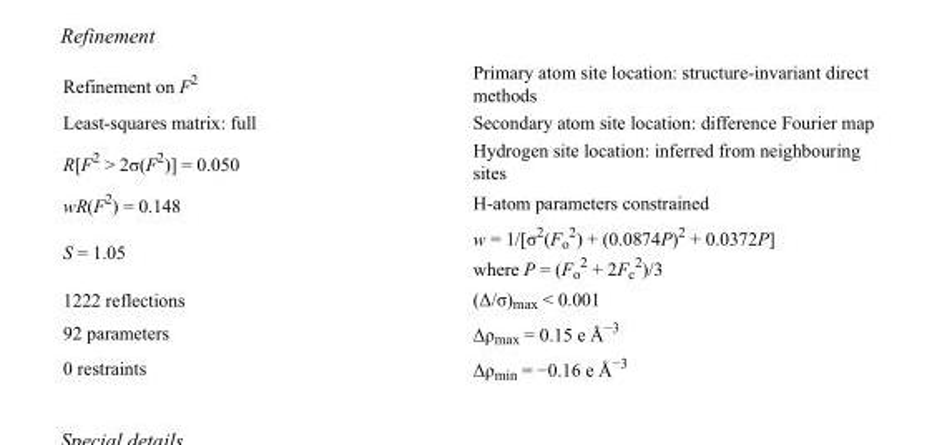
<table><tbody><tr><td>Refinement on F<sup>2</sup></td><td>Primary atom site location: structure-invariant direct methods</td></tr><tr><td>Least-squares matrix: full</td><td>Secondary atom site location: difference Fourier map</td></tr><tr><td>R[F<sup>2</sup> &gt; 2σ(F<sup>2</sup>)] = 0.050</td><td>Hydrogen site location: inferred from neighbouring sites</td></tr><tr><td>wR(F<sup>2</sup>) = 0.148</td><td>H-atom parameters constrained</td></tr><tr><td>S = 1.05</td><td>w = 1/[σ<sup>2</sup>(F<sub>o</sub> <sup>2</sup>) + (0.0874P)<sup>2</sup> + 0.0372P] where P = (F<sub>o</sub> <sup>2</sup> + 2F<sub>c</sub> <sup>2</sup>)/3</td></tr><tr><td>1222 reflections</td><td>(Δ/σ)<sub>max</sub> &lt; 0.001</td></tr><tr><td>92 parameters</td><td>Δρ<sub>max</sub> = 0.15 e Å<sup>−3</sup></td></tr><tr><td>0 restraints</td><td>Δρ<sub>min</sub> = −0.16 e Å<sup>−3</sup></td></tr></tbody></table>